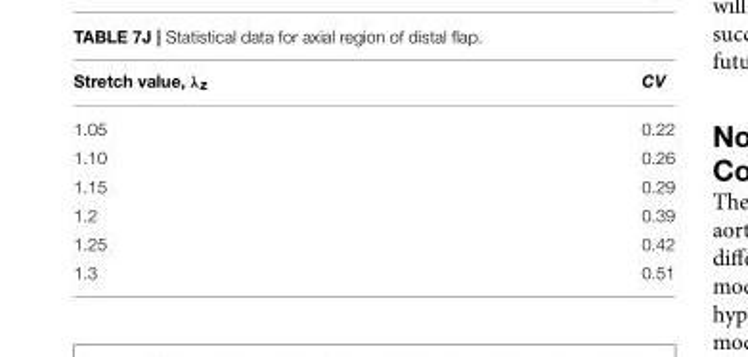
<table><thead><tr><td>Stretch value, λ<sub>z</sub></td><td>CV</td></tr></thead><tbody><tr><td>1.05</td><td>0.22</td></tr><tr><td>1.10</td><td>0.26</td></tr><tr><td>1.15</td><td>0.29</td></tr><tr><td>1.2</td><td>0.39</td></tr><tr><td>1.25</td><td>0.42</td></tr><tr><td>1.3</td><td>0.51</td></tr></tbody></table>